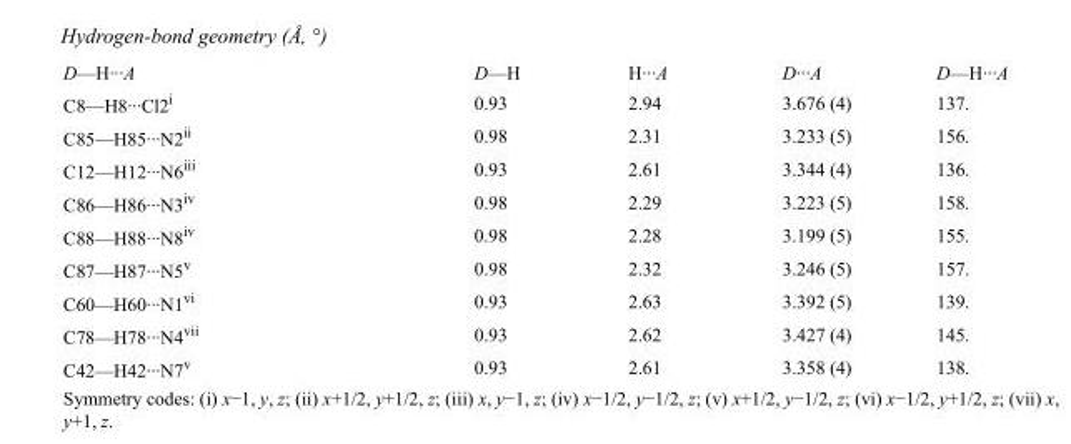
<table><tbody><tr><td>D—H···A</td><td>D—H</td><td>H···A</td><td>D···A</td><td>D—H···A</td></tr><tr><td>C8—H8···Cl2<sup>i</sup></td><td>0.93</td><td>2.94</td><td>3.676 (4)</td><td>137.</td></tr><tr><td>C85—H85···N2<sup>ii</sup></td><td>0.98</td><td>2.31</td><td>3.233 (5)</td><td>156.</td></tr><tr><td>C12—H12···N6<sup>iii</sup></td><td>0.93</td><td>2.61</td><td>3.344 (4)</td><td>136.</td></tr><tr><td>C86—H86···N3<sup>iv</sup></td><td>0.98</td><td>2.29</td><td>3.223 (5)</td><td>158.</td></tr><tr><td>C88—H88···N8<sup>iv</sup></td><td>0.98</td><td>2.28</td><td>3.199 (5)</td><td>155.</td></tr><tr><td>C87—H87···N5<sup>v</sup></td><td>0.98</td><td>2.32</td><td>3.246 (5)</td><td>157.</td></tr><tr><td>C60—H60···N1<sup>vi</sup></td><td>0.93</td><td>2.63</td><td>3.392 (5)</td><td>139.</td></tr><tr><td>C78—H78···N4<sup>vii</sup></td><td>0.93</td><td>2.62</td><td>3.427 (4)</td><td>145.</td></tr><tr><td>C42—H42···N7<sup>v</sup></td><td>0.93</td><td>2.61</td><td>3.358 (4)</td><td>138.</td></tr></tbody></table>